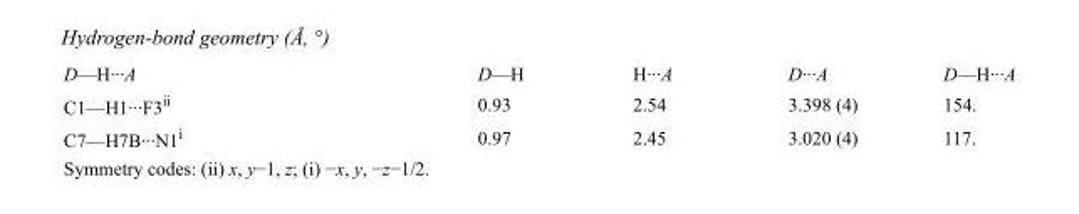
<table><tbody><tr><td>D—H···A</td><td>D—H</td><td>H···A</td><td>D···A</td><td>D—H···A</td></tr><tr><td>C1—H1···F3<sup>ii</sup></td><td>0.93</td><td>2.54</td><td>3.398 (4)</td><td>154.</td></tr><tr><td>C7—H7B···N1<sup>i</sup></td><td>0.97</td><td>2.45</td><td>3.020 (4)</td><td>117.</td></tr></tbody></table>